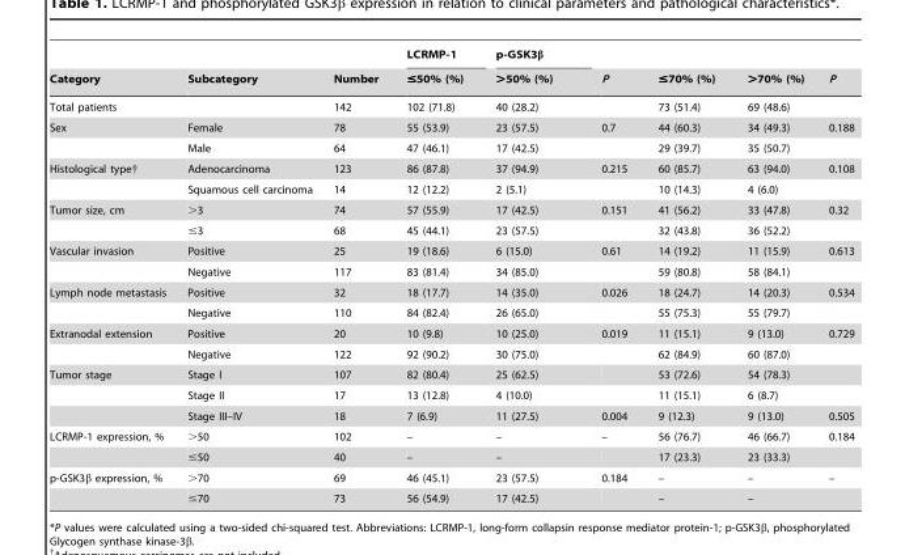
<table><thead><tr><td rowspan="2">Category</td><td rowspan="2">Subcategory</td><td rowspan="2">Number</td><td rowspan="2">LCRMP-1 ≤50% (%)</td><td rowspan="2">p-GSK3β &gt;50% (%)</td><td rowspan="2">P</td><td rowspan="2">≤70% (%)</td><td rowspan="2">&gt;70% (%)</td><td rowspan="2">P</td></tr><tr></tr></thead><tbody><tr><td>Total patients</td><td></td><td>142</td><td>102 (71.8)</td><td>40 (28.2)</td><td></td><td>73 (51.4)</td><td>69 (48.6)</td><td></td></tr><tr><td rowspan="2">Sex</td><td>Female</td><td>78</td><td>55 (53.9)</td><td>23 (57.5)</td><td>0.7</td><td>44 (60.3)</td><td>34 (49.3)</td><td>0.188</td></tr><tr><td>Male</td><td>64</td><td>47 (46.1)</td><td>17 (42.5)</td><td></td><td>29 (39.7)</td><td>35 (50.7)</td><td></td></tr><tr><td rowspan="2">Histological type†</td><td>Adenocarcinoma</td><td>123</td><td>86 (87.8)</td><td>37 (94.9)</td><td>0.215</td><td>60 (85.7)</td><td>63 (94.0)</td><td>0.108</td></tr><tr><td>Squamous cell carcinoma</td><td>14</td><td>12 (12.2)</td><td>2 (5.1)</td><td></td><td>10 (14.3)</td><td>4 (6.0)</td><td></td></tr><tr><td rowspan="2">Tumor size, cm</td><td>&gt;3</td><td>74</td><td>57 (55.9)</td><td>17 (42.5)</td><td>0.151</td><td>41 (56.2)</td><td>33 (47.8)</td><td>0.32</td></tr><tr><td>≤3</td><td>68</td><td>45 (44.1)</td><td>23 (57.5)</td><td></td><td>32 (43.8)</td><td>36 (52.2)</td><td></td></tr><tr><td rowspan="2">Vascular invasion</td><td>Positive</td><td>25</td><td>19 (18.6)</td><td>6 (15.0)</td><td>0.61</td><td>14 (19.2)</td><td>11 (15.9)</td><td>0.613</td></tr><tr><td>Negative</td><td>117</td><td>83 (81.4)</td><td>34 (85.0)</td><td></td><td>59 (80.8)</td><td>58 (84.1)</td><td></td></tr><tr><td rowspan="2">Lymph node metastasis</td><td>Positive</td><td>32</td><td>18 (17.7)</td><td>14 (35.0)</td><td>0.026</td><td>18 (24.7)</td><td>14 (20.3)</td><td>0.534</td></tr><tr><td>Negative</td><td>110</td><td>84 (82.4)</td><td>26 (65.0)</td><td></td><td>55 (75.3)</td><td>55 (79.7)</td><td></td></tr><tr><td rowspan="2">Extranodal extension</td><td>Positive</td><td>20</td><td>10 (9.8)</td><td>10 (25.0)</td><td>0.019</td><td>11 (15.1)</td><td>9 (13.0)</td><td>0.729</td></tr><tr><td>Negative</td><td>122</td><td>92 (90.2)</td><td>30 (75.0)</td><td></td><td>62 (84.9)</td><td>60 (87.0)</td><td></td></tr><tr><td rowspan="3">Tumor stage</td><td>Stage I</td><td>107</td><td>82 (80.4)</td><td>25 (62.5)</td><td></td><td>53 (72.6)</td><td>54 (78.3)</td><td></td></tr><tr><td>Stage II</td><td>17</td><td>13 (12.8)</td><td>4 (10.0)</td><td></td><td>11 (15.1)</td><td>6 (8.7)</td><td></td></tr><tr><td>Stage III–IV</td><td>18</td><td>7 (6.9)</td><td>11 (27.5)</td><td>0.004</td><td>9 (12.3)</td><td>9 (13.0)</td><td>0.505</td></tr><tr><td rowspan="2">LCRMP-1 expression, %</td><td>&gt;50</td><td>102</td><td>–</td><td>–</td><td>–</td><td>56 (76.7)</td><td>46 (66.7)</td><td>0.184</td></tr><tr><td>≤50</td><td>40</td><td>–</td><td>–</td><td></td><td>17 (23.3)</td><td>23 (33.3)</td><td></td></tr><tr><td rowspan="2">p-GSK3β expression, %</td><td>&gt;70</td><td>69</td><td>46 (45.1)</td><td>23 (57.5)</td><td>0.184</td><td>–</td><td>–</td><td>–</td></tr><tr><td>≤70</td><td>73</td><td>56 (54.9)</td><td>17 (42.5)</td><td></td><td>–</td><td>–</td><td></td></tr></tbody></table>